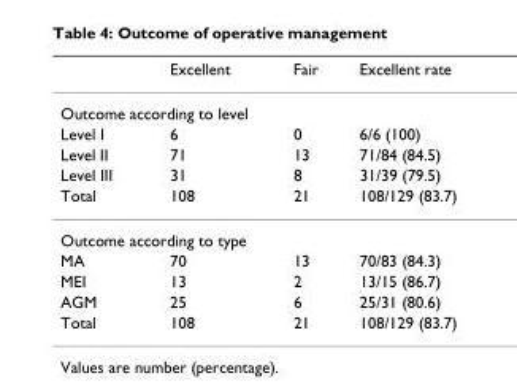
<table><thead><tr><td></td><td>Excellent</td><td>Fair</td><td>Excellent rate</td></tr></thead><tbody><tr><td colspan="4">Outcome according to level</td></tr><tr><td>Level I</td><td>6</td><td>0</td><td>6/6 (100)</td></tr><tr><td>Level II</td><td>71</td><td>13</td><td>71/84 (84.5)</td></tr><tr><td>Level III</td><td>31</td><td>8</td><td>31/39 (79.5)</td></tr><tr><td>Total</td><td>108</td><td>21</td><td>108/129 (83.7)</td></tr><tr><td colspan="4">Outcome according to type</td></tr><tr><td>MA</td><td>70</td><td>13</td><td>70/83 (84.3)</td></tr><tr><td>MEI</td><td>13</td><td>2</td><td>13/15 (86.7)</td></tr><tr><td>AGM</td><td>25</td><td>6</td><td>25/31 (80.6)</td></tr><tr><td>Total</td><td>108</td><td>21</td><td>108/129 (83.7)</td></tr></tbody></table>